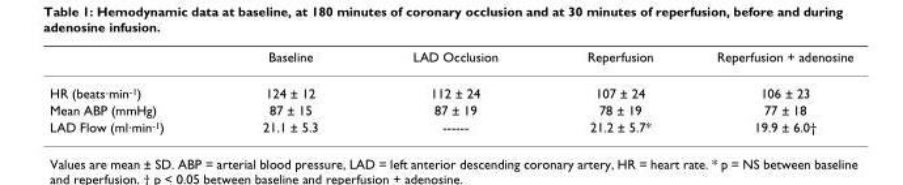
<table><thead><tr><td></td><td>Baseline</td><td>LAD Occlusion</td><td>Reperfusion</td><td>Reperfusion + adenosine</td></tr></thead><tbody><tr><td>HR (beats·min<sup>-1</sup>)</td><td>124 ± 12</td><td>112 ± 24</td><td>107 ± 24</td><td>106 ± 23</td></tr><tr><td>Mean ABP (mmHg)</td><td>87 ± 15</td><td>87 ± 19</td><td>78 ± 19</td><td>77 ± 18</td></tr><tr><td>LAD Flow (ml·min<sup>-1</sup>)</td><td>21.1 ± 5.3</td><td>------</td><td>21.2 ± 5.7*</td><td>19.9 ± 6.0†</td></tr></tbody></table>